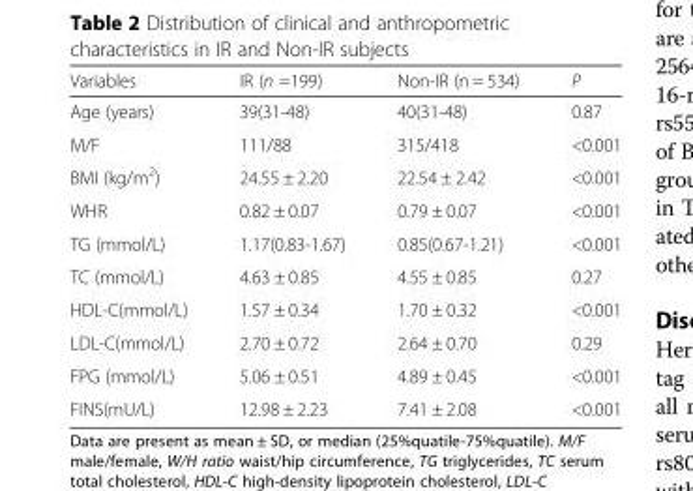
<table><thead><tr><td>Variables</td><td>IR (n =199)</td><td>Non-IR (n = 534)</td><td>P</td></tr></thead><tbody><tr><td>Age (years)</td><td>39(31-48)</td><td>40(31-48)</td><td>0.87</td></tr><tr><td>M/F</td><td>111/88</td><td>315/418</td><td>&lt;0.001</td></tr><tr><td>BMI (kg/m<sup>2</sup>)</td><td>24.55 ± 2.20</td><td>22.54 ± 2.42</td><td>&lt;0.001</td></tr><tr><td>WHR</td><td>0.82 ± 0.07</td><td>0.79 ± 0.07</td><td>&lt;0.001</td></tr><tr><td>TG (mmol/L)</td><td>1.17(0.83-1.67)</td><td>0.85(0.67-1.21)</td><td>&lt;0.001</td></tr><tr><td>TC (mmol/L)</td><td>4.63 ± 0.85</td><td>4.55 ± 0.85</td><td>0.27</td></tr><tr><td>HDL-C(mmol/L)</td><td>1.57 ± 0.34</td><td>1.70 ± 0.32</td><td>&lt;0.001</td></tr><tr><td>LDL-C(mmol/L)</td><td>2.70 ± 0.72</td><td>2.64 ± 0.70</td><td>0.29</td></tr><tr><td>FPG (mmol/L)</td><td>5.06 ± 0.51</td><td>4.89 ± 0.45</td><td>&lt;0.001</td></tr><tr><td>FINS(mU/L)</td><td>12.98 ± 2.23</td><td>7.41 ± 2.08</td><td>&lt;0.001</td></tr></tbody></table>